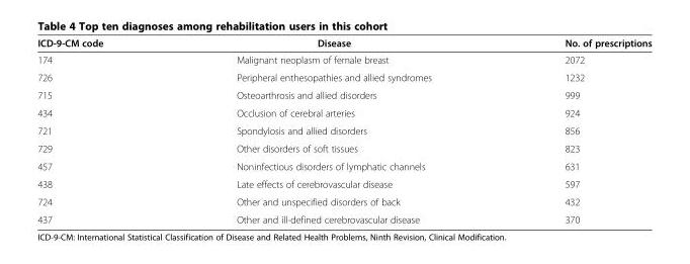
<table><thead><tr><td>ICD-9-CM code</td><td>Disease</td><td>No. of prescriptions</td></tr></thead><tbody><tr><td>174</td><td>Malignant neoplasm of female breast</td><td>2072</td></tr><tr><td>726</td><td>Peripheral enthesopathies and allied syndromes</td><td>1232</td></tr><tr><td>715</td><td>Osteoarthrosis and allied disorders</td><td>999</td></tr><tr><td>434</td><td>Occlusion of cerebral arteries</td><td>924</td></tr><tr><td>721</td><td>Spondylosis and allied disorders</td><td>856</td></tr><tr><td>729</td><td>Other disorders of soft tissues</td><td>823</td></tr><tr><td>457</td><td>Noninfectious disorders of lymphatic channels</td><td>631</td></tr><tr><td>438</td><td>Late effects of cerebrovascular disease</td><td>597</td></tr><tr><td>724</td><td>Other and unspecified disorders of back</td><td>432</td></tr><tr><td>437</td><td>Other and ill-defined cerebrovascular disease</td><td>370</td></tr></tbody></table>